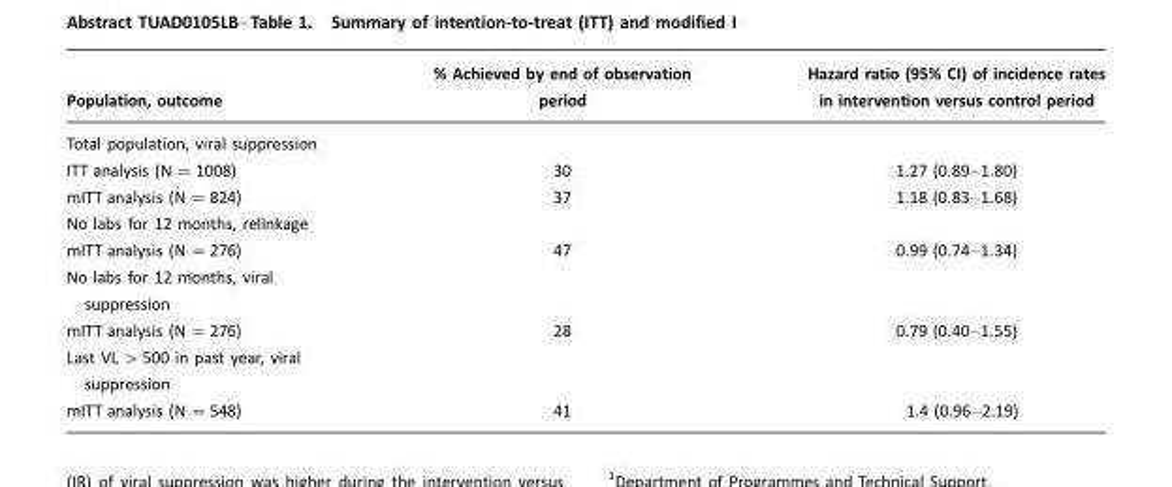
<table><thead><tr><td>Population, outcome</td><td>% Achieved by end of observation period</td><td>Hazard ratio (95% CI) of incidence rates in intervention versus control period</td></tr></thead><tbody><tr><td colspan="3">Total population, viral suppression</td></tr><tr><td>ITT analysis (N =1008)</td><td>30</td><td>1.27 (0.89–1.80)</td></tr><tr><td>mITT analysis (N =824)</td><td>37</td><td>1.18 (0.83–1.68)</td></tr><tr><td colspan="3">No labs for 12 months, relinkage</td></tr><tr><td>mITT analysis (N =276)</td><td>47</td><td>0.99 (0.74–1.34)</td></tr><tr><td colspan="3">No labs for 12 months, viral suppression</td></tr><tr><td>mITT analysis (N =276)</td><td>28</td><td>0.79 (0.40–1.55)</td></tr><tr><td colspan="3">Last VL &gt;500 in past year, viral suppression</td></tr><tr><td>mITT analysis (N =548)</td><td>41</td><td>1.4 (0.96–2.19)</td></tr></tbody></table>